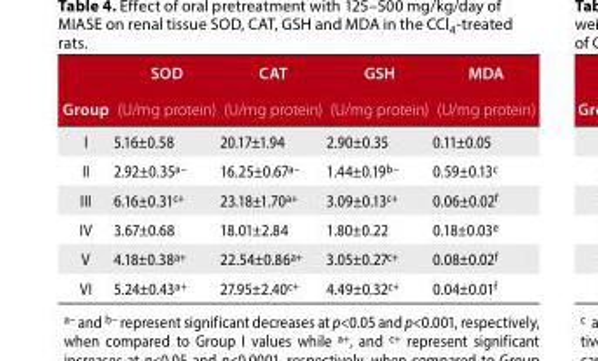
<table><thead><tr><td>Group</td><td>SOD (U/mg protein)</td><td>CAT (U/mg protein)</td><td>GSH (U/mg protein)</td><td>MDA (U/mg protein)</td></tr></thead><tbody><tr><td>I</td><td>5.16±0.58</td><td>20.17±1.94</td><td>2.90±0.35</td><td>0.11±0.05</td></tr><tr><td>II</td><td>2.92±0.35<sup>a–</sup></td><td>16.25±0.67<sup>a–</sup></td><td>1.44±0.19<sup>b–</sup></td><td>0.59±0.13<sup>c</sup></td></tr><tr><td>III</td><td>6.16±0.31<sup>c+</sup></td><td>23.18±1.70<sup>a+</sup></td><td>3.09±0.13<sup>c+</sup></td><td>0.06±0.02<sup>f</sup></td></tr><tr><td>IV</td><td>3.67±0.68</td><td>18.01±2.84</td><td>1.80±0.22</td><td>0.18±0.03<sup>e</sup></td></tr><tr><td>V</td><td>4.18±0.38<sup>a+</sup></td><td>22.54±0.86<sup>a+</sup></td><td>3.05±0.27<sup>c+</sup></td><td>0.08±0.02<sup>f</sup></td></tr><tr><td>VI</td><td>5.24±0.43<sup>a+</sup></td><td>27.95±2.40<sup>c+</sup></td><td>4.49±0.32<sup>c+</sup></td><td>0.04±0.01<sup>f</sup></td></tr></tbody></table>